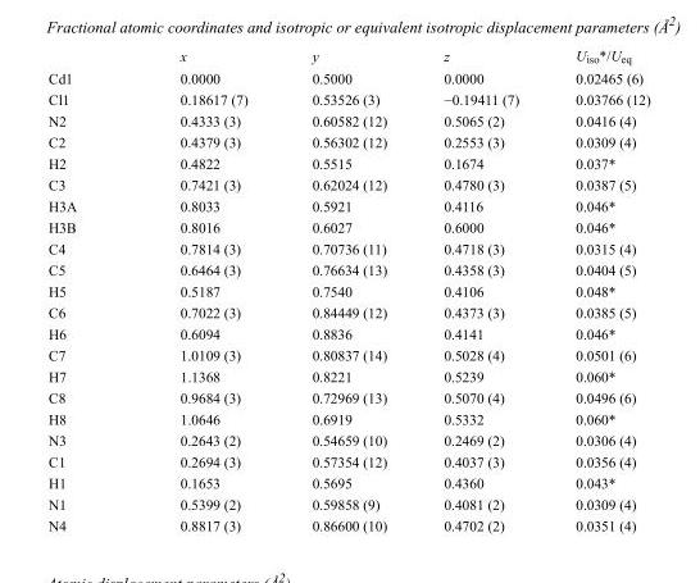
<table><thead><tr><td></td><td>x</td><td>y</td><td>z</td><td>U<sub>iso</sub>*/U<sub>eq</sub></td></tr></thead><tbody><tr><td>Cd1</td><td>0.0000</td><td>0.5000</td><td>0.0000</td><td>0.02465 (6)</td></tr><tr><td>Cl1</td><td>0.18617 (7)</td><td>0.53526 (3)</td><td>−0.19411 (7)</td><td>0.03766 (12)</td></tr><tr><td>N2</td><td>0.4333 (3)</td><td>0.60582 (12)</td><td>0.5065 (2)</td><td>0.0416 (4)</td></tr><tr><td>C2</td><td>0.4379 (3)</td><td>0.56302 (12)</td><td>0.2553 (3)</td><td>0.0309 (4)</td></tr><tr><td>H2</td><td>0.4822</td><td>0.5515</td><td>0.1674</td><td>0.037*</td></tr><tr><td>C3</td><td>0.7421 (3)</td><td>0.62024 (12)</td><td>0.4780 (3)</td><td>0.0387 (5)</td></tr><tr><td>H3A</td><td>0.8033</td><td>0.5921</td><td>0.4116</td><td>0.046*</td></tr><tr><td>H3B</td><td>0.8016</td><td>0.6027</td><td>0.6000</td><td>0.046*</td></tr><tr><td>C4</td><td>0.7814 (3)</td><td>0.70736 (11)</td><td>0.4718 (3)</td><td>0.0315 (4)</td></tr><tr><td>C5</td><td>0.6464 (3)</td><td>0.76634 (13)</td><td>0.4358 (3)</td><td>0.0404 (5)</td></tr><tr><td>H5</td><td>0.5187</td><td>0.7540</td><td>0.4106</td><td>0.048*</td></tr><tr><td>C6</td><td>0.7022 (3)</td><td>0.84449 (12)</td><td>0.4373 (3)</td><td>0.0385 (5)</td></tr><tr><td>H6</td><td>0.6094</td><td>0.8836</td><td>0.4141</td><td>0.046*</td></tr><tr><td>C7</td><td>1.0109 (3)</td><td>0.80837 (14)</td><td>0.5028 (4)</td><td>0.0501 (6)</td></tr><tr><td>H7</td><td>1.1368</td><td>0.8221</td><td>0.5239</td><td>0.060*</td></tr><tr><td>C8</td><td>0.9684 (3)</td><td>0.72969 (13)</td><td>0.5070 (4)</td><td>0.0496 (6)</td></tr><tr><td>H8</td><td>1.0646</td><td>0.6919</td><td>0.5332</td><td>0.060*</td></tr><tr><td>N3</td><td>0.2643 (2)</td><td>0.54659 (10)</td><td>0.2469 (2)</td><td>0.0306 (4)</td></tr><tr><td>C1</td><td>0.2694 (3)</td><td>0.57354 (12)</td><td>0.4037 (3)</td><td>0.0356 (4)</td></tr><tr><td>H1</td><td>0.1653</td><td>0.5695</td><td>0.4360</td><td>0.043*</td></tr><tr><td>N1</td><td>0.5399 (2)</td><td>0.59858 (9)</td><td>0.4081 (2)</td><td>0.0309 (4)</td></tr><tr><td>N4</td><td>0.8817 (3)</td><td>0.86600 (10)</td><td>0.4702 (2)</td><td>0.0351 (4)</td></tr></tbody></table>